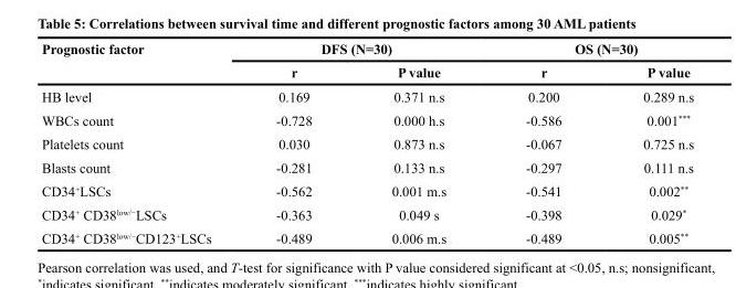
<table><thead><tr><td rowspan="2">Prognostic factor</td><td colspan="2">DFS (N=30)</td><td colspan="2">OS (N=30)</td></tr><tr><td>r</td><td>P value</td><td>r</td><td>P value</td></tr></thead><tbody><tr><td>HB level</td><td>0.169</td><td>0.371 n.s</td><td>0.200</td><td>0.289 n.s</td></tr><tr><td>WBCs count</td><td>-0.728</td><td>0.000 h.s</td><td>-0.586</td><td>0.001***</td></tr><tr><td>Platelets count</td><td>0.030</td><td>0.873 n.s</td><td>-0.067</td><td>0.725 n.s</td></tr><tr><td>Blasts count</td><td>-0.281</td><td>0.133 n.s</td><td>-0.297</td><td>0.111 n.s</td></tr><tr><td>CD34<sup>+</sup>LSCs</td><td>-0.562</td><td>0.001 m.s</td><td>-0.541</td><td>0.002**</td></tr><tr><td>CD34<sup>+</sup> CD38<sup>low/−</sup>LSCs</td><td>-0.363</td><td>0.049 s</td><td>-0.398</td><td>0.029*</td></tr><tr><td>CD34<sup>+</sup> CD38<sup>low/−</sup>CD123<sup>+</sup>LSCs</td><td>-0.489</td><td>0.006 m.s</td><td>-0.489</td><td>0.005**</td></tr></tbody></table>